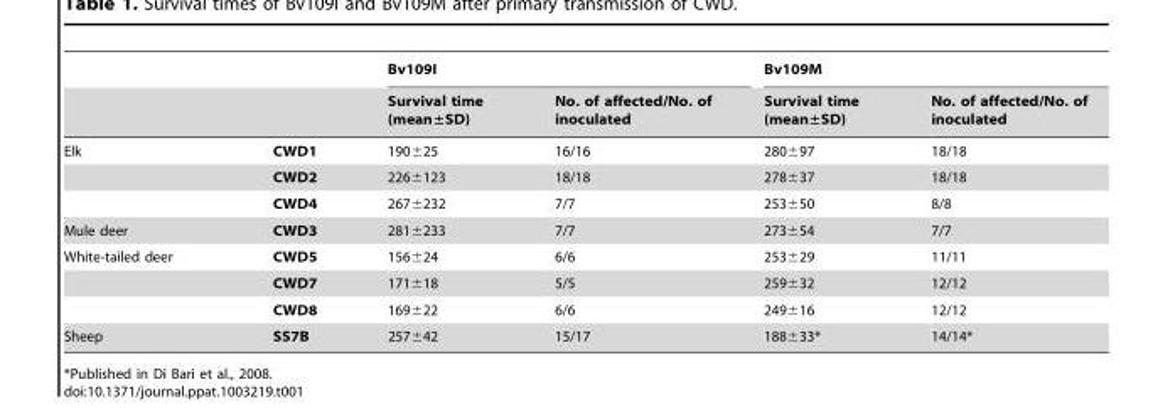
<table><thead><tr><td rowspan="2"></td><td rowspan="2"></td><td colspan="2">Bv109I</td><td colspan="2">Bv109M</td></tr><tr><td>Survival time (mean±SD)</td><td>No. of affected/No. of inoculated</td><td>Survival time (mean±SD)</td><td>No. of affected/No. of inoculated</td></tr></thead><tbody><tr><td rowspan="3">Elk</td><td>CWD1</td><td>190±25</td><td>16/16</td><td>280±97</td><td>18/18</td></tr><tr><td>CWD2</td><td>226±123</td><td>18/18</td><td>278±37</td><td>18/18</td></tr><tr><td>CWD4</td><td>267±232</td><td>7/7</td><td>253±50</td><td>8/8</td></tr><tr><td>Mule deer</td><td>CWD3</td><td>281±233</td><td>7/7</td><td>273±54</td><td>7/7</td></tr><tr><td rowspan="3">White-tailed deer</td><td>CWD5</td><td>156±24</td><td>6/6</td><td>253±29</td><td>11/11</td></tr><tr><td>CWD7</td><td>171±18</td><td>5/5</td><td>259±32</td><td>12/12</td></tr><tr><td>CWD8</td><td>169±22</td><td>6/6</td><td>249±16</td><td>12/12</td></tr><tr><td>Sheep</td><td>SS7B</td><td>257±42</td><td>15/17</td><td>188±33*</td><td>14/14*</td></tr></tbody></table>